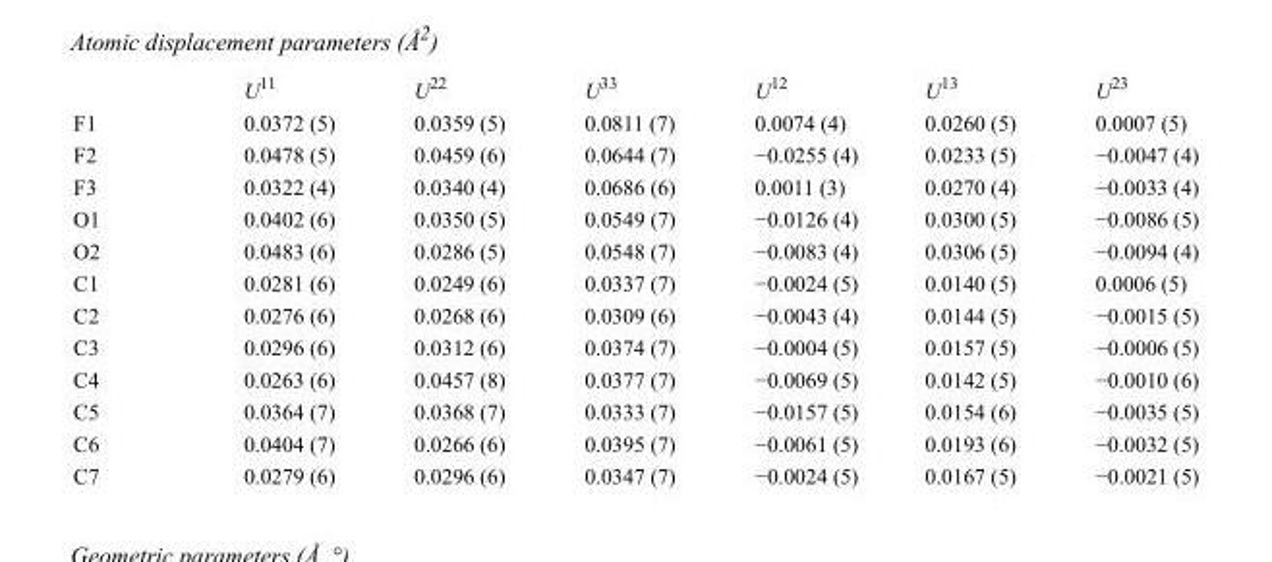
<table><thead><tr><td></td><td>U<sup>11</sup></td><td>U<sup>22</sup></td><td>U<sup>33</sup></td><td>U<sup>12</sup></td><td>U<sup>13</sup></td><td>U<sup>23</sup></td></tr></thead><tbody><tr><td>F1</td><td>0.0372 (5)</td><td>0.0359 (5)</td><td>0.0811 (7)</td><td>0.0074 (4)</td><td>0.0260 (5)</td><td>0.0007 (5)</td></tr><tr><td>F2</td><td>0.0478 (5)</td><td>0.0459 (6)</td><td>0.0644 (7)</td><td>−0.0255 (4)</td><td>0.0233 (5)</td><td>−0.0047 (4)</td></tr><tr><td>F3</td><td>0.0322 (4)</td><td>0.0340 (4)</td><td>0.0686 (6)</td><td>0.0011 (3)</td><td>0.0270 (4)</td><td>−0.0033 (4)</td></tr><tr><td>O1</td><td>0.0402 (6)</td><td>0.0350 (5)</td><td>0.0549 (7)</td><td>−0.0126 (4)</td><td>0.0300 (5)</td><td>−0.0086 (5)</td></tr><tr><td>O2</td><td>0.0483 (6)</td><td>0.0286 (5)</td><td>0.0548 (7)</td><td>−0.0083 (4)</td><td>0.0306 (5)</td><td>−0.0094 (4)</td></tr><tr><td>C1</td><td>0.0281 (6)</td><td>0.0249 (6)</td><td>0.0337 (7)</td><td>−0.0024 (5)</td><td>0.0140 (5)</td><td>0.0006 (5)</td></tr><tr><td>C2</td><td>0.0276 (6)</td><td>0.0268 (6)</td><td>0.0309 (6)</td><td>−0.0043 (4)</td><td>0.0144 (5)</td><td>−0.0015 (5)</td></tr><tr><td>C3</td><td>0.0296 (6)</td><td>0.0312 (6)</td><td>0.0374 (7)</td><td>−0.0004 (5)</td><td>0.0157 (5)</td><td>−0.0006 (5)</td></tr><tr><td>C4</td><td>0.0263 (6)</td><td>0.0457 (8)</td><td>0.0377 (7)</td><td>−0.0069 (5)</td><td>0.0142 (5)</td><td>−0.0010 (6)</td></tr><tr><td>C5</td><td>0.0364 (7)</td><td>0.0368 (7)</td><td>0.0333 (7)</td><td>−0.0157 (5)</td><td>0.0154 (6)</td><td>−0.0035 (5)</td></tr><tr><td>C6</td><td>0.0404 (7)</td><td>0.0266 (6)</td><td>0.0395 (7)</td><td>−0.0061 (5)</td><td>0.0193 (6)</td><td>−0.0032 (5)</td></tr><tr><td>C7</td><td>0.0279 (6)</td><td>0.0296 (6)</td><td>0.0347 (7)</td><td>−0.0024 (5)</td><td>0.0167 (5)</td><td>−0.0021 (5)</td></tr></tbody></table>